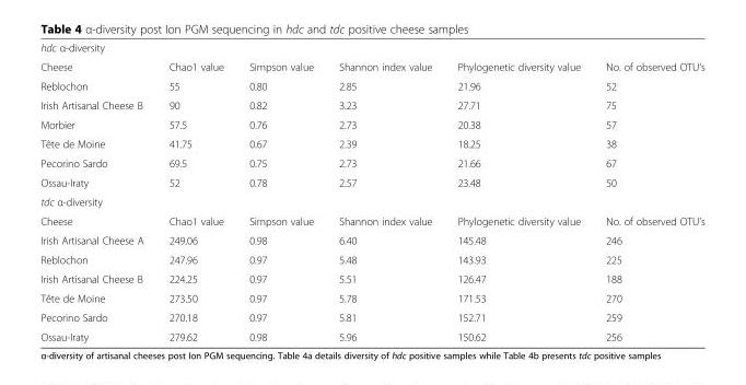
<table><tbody><tr><td colspan="6">hdc α-diversity</td></tr><tr><td>Cheese</td><td>Chao1 value</td><td>Simpson value</td><td>Shannon index value</td><td>Phylogenetic diversity value</td><td>No. of observed OTU’s</td></tr><tr><td>Reblochon</td><td>55</td><td>0.80</td><td>2.85</td><td>21.96</td><td>52</td></tr><tr><td>Irish Artisanal Cheese B</td><td>90</td><td>0.82</td><td>3.23</td><td>27.71</td><td>75</td></tr><tr><td>Morbier</td><td>57.5</td><td>0.76</td><td>2.73</td><td>20.38</td><td>57</td></tr><tr><td>Tête de Moine</td><td>41.75</td><td>0.67</td><td>2.39</td><td>18.25</td><td>38</td></tr><tr><td>Pecorino Sardo</td><td>69.5</td><td>0.75</td><td>2.73</td><td>21.66</td><td>67</td></tr><tr><td>Ossau-Iraty</td><td>52</td><td>0.78</td><td>2.57</td><td>23.48</td><td>50</td></tr><tr><td colspan="6">tdc α-diversity</td></tr><tr><td>Cheese</td><td>Chao1 value</td><td>Simpson value</td><td>Shannon index value</td><td>Phylogenetic diversity value</td><td>No. of observed OTU’s</td></tr><tr><td>Irish Artisanal Cheese A</td><td>249.06</td><td>0.98</td><td>6.40</td><td>145.48</td><td>246</td></tr><tr><td>Reblochon</td><td>247.96</td><td>0.97</td><td>5.48</td><td>143.93</td><td>225</td></tr><tr><td>Irish Artisanal Cheese B</td><td>224.25</td><td>0.97</td><td>5.51</td><td>126.47</td><td>188</td></tr><tr><td>Tête de Moine</td><td>273.50</td><td>0.97</td><td>5.78</td><td>171.53</td><td>270</td></tr><tr><td>Pecorino Sardo</td><td>270.18</td><td>0.97</td><td>5.81</td><td>152.71</td><td>259</td></tr><tr><td>Ossau-Iraty</td><td>279.62</td><td>0.98</td><td>5.96</td><td>150.62</td><td>256</td></tr></tbody></table>